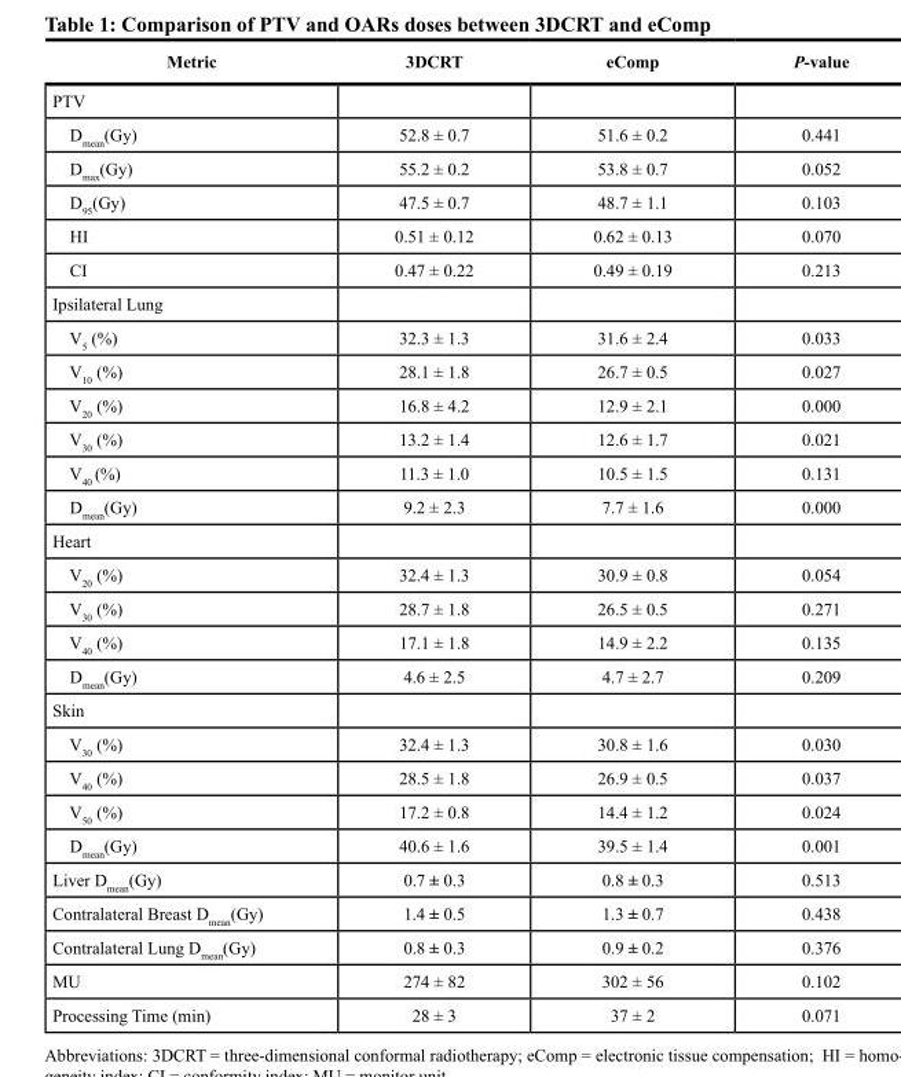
<table><thead><tr><td>Metric</td><td>3DCRT</td><td>eComp</td><td>P-value</td></tr></thead><tbody><tr><td colspan="4">PTV</td></tr><tr><td>D<sub>mean</sub>(Gy)</td><td>52.8 ± 0.7</td><td>51.6 ± 0.2</td><td>0.441</td></tr><tr><td>D<sub>max</sub>(Gy)</td><td>55.2 ± 0.2</td><td>53.8 ± 0.7</td><td>0.052</td></tr><tr><td>D<sub>95</sub>(Gy)</td><td>47.5 ± 0.7</td><td>48.7 ± 1.1</td><td>0.103</td></tr><tr><td>HI</td><td>0.51 ± 0.12</td><td>0.62 ± 0.13</td><td>0.070</td></tr><tr><td>CI</td><td>0.47 ± 0.22</td><td>0.49 ± 0.19</td><td>0.213</td></tr><tr><td colspan="4">Ipsilateral Lung</td></tr><tr><td>V<sub>5</sub> (%)</td><td>32.3 ± 1.3</td><td>31.6 ± 2.4</td><td>0.033</td></tr><tr><td>V<sub>10</sub> (%)</td><td>28.1 ± 1.8</td><td>26.7 ± 0.5</td><td>0.027</td></tr><tr><td>V<sub>20</sub> (%)</td><td>16.8 ± 4.2</td><td>12.9 ± 2.1</td><td>0.000</td></tr><tr><td>V<sub>30</sub> (%)</td><td>13.2 ± 1.4</td><td>12.6 ± 1.7</td><td>0.021</td></tr><tr><td>V<sub>40</sub> (%)</td><td>11.3 ± 1.0</td><td>10.5 ± 1.5</td><td>0.131</td></tr><tr><td>D<sub>mean</sub>(Gy)</td><td>9.2 ± 2.3</td><td>7.7 ± 1.6</td><td>0.000</td></tr><tr><td colspan="4">Heart</td></tr><tr><td>V<sub>20</sub> (%)</td><td>32.4 ± 1.3</td><td>30.9 ± 0.8</td><td>0.054</td></tr><tr><td>V<sub>30</sub> (%)</td><td>28.7 ± 1.8</td><td>26.5 ± 0.5</td><td>0.271</td></tr><tr><td>V<sub>40</sub> (%)</td><td>17.1 ± 1.8</td><td>14.9 ± 2.2</td><td>0.135</td></tr><tr><td>D<sub>mean</sub>(Gy)</td><td>4.6 ± 2.5</td><td>4.7 ± 2.7</td><td>0.209</td></tr><tr><td colspan="4">Skin</td></tr><tr><td>V<sub>30</sub> (%)</td><td>32.4 ± 1.3</td><td>30.8 ± 1.6</td><td>0.030</td></tr><tr><td>V<sub>40</sub> (%)</td><td>28.5 ± 1.8</td><td>26.9 ± 0.5</td><td>0.037</td></tr><tr><td>V<sub>50</sub> (%)</td><td>17.2 ± 0.8</td><td>14.4 ± 1.2</td><td>0.024</td></tr><tr><td>D<sub>mean</sub>(Gy)</td><td>40.6 ± 1.6</td><td>39.5 ± 1.4</td><td>0.001</td></tr><tr><td>Liver D<sub>mean</sub>(Gy)</td><td>0.7 ± 0.3</td><td>0.8 ± 0.3</td><td>0.513</td></tr><tr><td>Contralateral Breast D<sub>mean</sub>(Gy)</td><td>1.4 ± 0.5</td><td>1.3 ± 0.7</td><td>0.438</td></tr><tr><td>Contralateral Lung D<sub>mean</sub>(Gy)</td><td>0.8 ± 0.3</td><td>0.9 ± 0.2</td><td>0.376</td></tr><tr><td>MU</td><td>274 ± 82</td><td>302 ± 56</td><td>0.102</td></tr><tr><td>Processing Time (min)</td><td>28 ± 3</td><td>37 ± 2</td><td>0.071</td></tr></tbody></table>